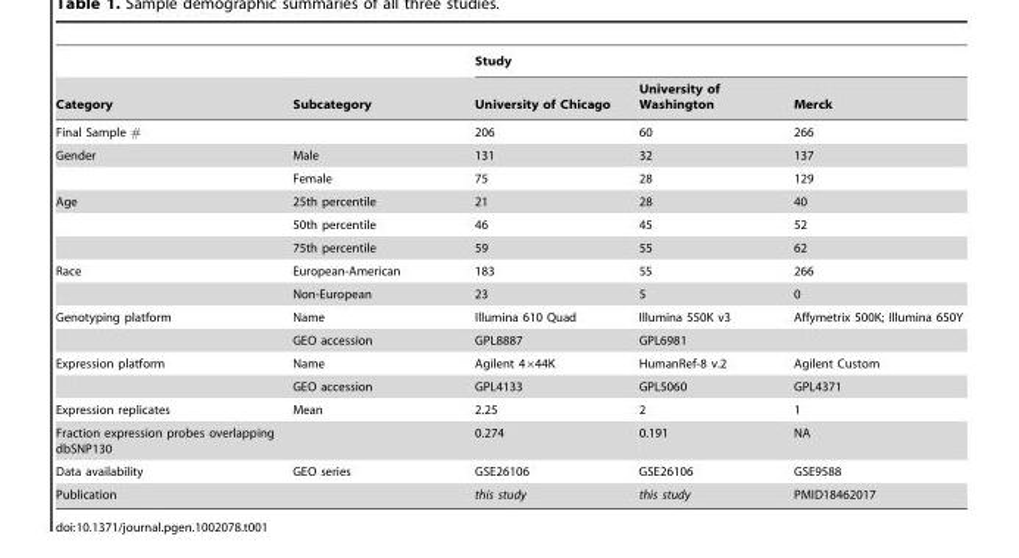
<table><thead><tr><td rowspan="2">Category</td><td rowspan="2">Subcategory</td><td colspan="3">Study</td></tr><tr><td>University of Chicago</td><td>University of Washington</td><td>Merck</td></tr></thead><tbody><tr><td>Final Sample #</td><td></td><td>206</td><td>60</td><td>266</td></tr><tr><td rowspan="2">Gender</td><td>Male</td><td>131</td><td>32</td><td>137</td></tr><tr><td>Female</td><td>75</td><td>28</td><td>129</td></tr><tr><td rowspan="3">Age</td><td>25th percentile</td><td>21</td><td>28</td><td>40</td></tr><tr><td>50th percentile</td><td>46</td><td>45</td><td>52</td></tr><tr><td>75th percentile</td><td>59</td><td>55</td><td>62</td></tr><tr><td rowspan="2">Race</td><td>European-American</td><td>183</td><td>55</td><td>266</td></tr><tr><td>Non-European</td><td>23</td><td>5</td><td>0</td></tr><tr><td rowspan="2">Genotyping platform</td><td>Name</td><td>Illumina 610 Quad</td><td>Illumina 550K v3</td><td>Affymetrix 500K; Illumina 650Y</td></tr><tr><td>GEO accession</td><td>GPL8887</td><td>GPL6981</td><td></td></tr><tr><td rowspan="2">Expression platform</td><td>Name</td><td>Agilent 4×44K</td><td>HumanRef-8 v.2</td><td>Agilent Custom</td></tr><tr><td>GEO accession</td><td>GPL4133</td><td>GPL5060</td><td>GPL4371</td></tr><tr><td>Expression replicates</td><td>Mean</td><td>2.25</td><td>2</td><td>1</td></tr><tr><td>Fraction expression probes overlapping dbSNP130</td><td></td><td>0.274</td><td>0.191</td><td>NA</td></tr><tr><td>Data availability</td><td>GEO series</td><td>GSE26106</td><td>GSE26106</td><td>GSE9588</td></tr><tr><td>Publication</td><td></td><td>this study</td><td>this study</td><td>PMID18462017</td></tr></tbody></table>